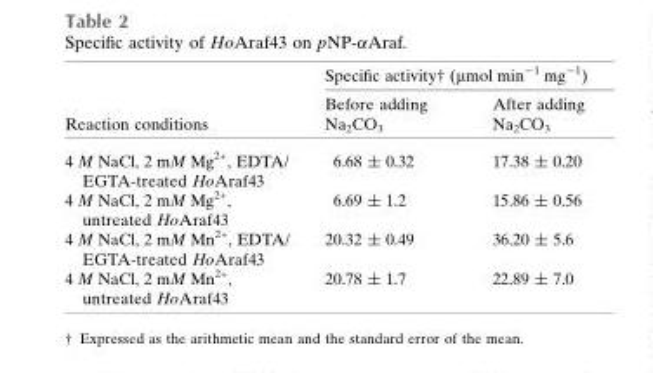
<table><thead><tr><td rowspan="2">Reaction conditions</td><td colspan="2">Specific activity† (mmol min�1 mg�1)</td></tr><tr><td>Before adding Na2CO3</td><td>After adding Na2CO3</td></tr></thead><tbody><tr><td>4 M NaCl, 2 mM Mg2+, EDTA/ EGTA-treated HoAraf43</td><td>6.68 � 0.32</td><td>17.38 � 0.20</td></tr><tr><td>4 M NaCl, 2 mM Mg2+, untreated HoAraf43</td><td>6.69 � 1.2</td><td>15.86 � 0.56</td></tr><tr><td>4 M NaCl, 2 mM Mn2+, EDTA/ EGTA-treated HoAraf43</td><td>20.32 � 0.49</td><td>36.20 � 5.6</td></tr><tr><td>4 M NaCl, 2 mM Mn2+, untreated HoAraf43</td><td>20.78 � 1.7</td><td>22.89 � 7.0</td></tr></tbody></table>